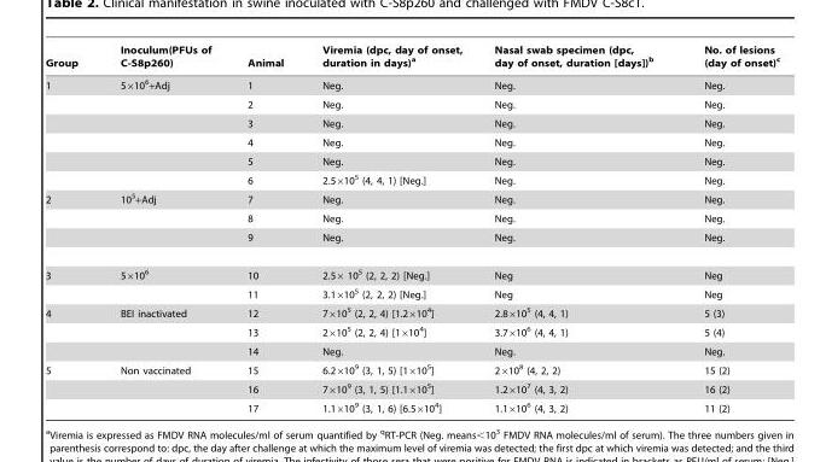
<table><thead><tr><td>Group</td><td>Inoculum(PFUs of C-S8p260)</td><td>Animal</td><td>Viremia (dpc, day of onset, duration in days)<sup>a</sup></td><td>Nasal swab specimen (dpc, day of onset, duration [days])<sup>b</sup></td><td>No. of lesions (day of onset)<sup>c</sup></td></tr></thead><tbody><tr><td rowspan="6">1</td><td>5×10<sup>6</sup>+Adj</td><td>1</td><td>Neg.</td><td>Neg.</td><td>Neg.</td></tr><tr><td></td><td>2</td><td>Neg.</td><td>Neg.</td><td>Neg.</td></tr><tr><td></td><td>3</td><td>Neg.</td><td>Neg.</td><td>Neg.</td></tr><tr><td></td><td>4</td><td>Neg.</td><td>Neg.</td><td>Neg.</td></tr><tr><td></td><td>5</td><td>Neg.</td><td>Neg.</td><td>Neg.</td></tr><tr><td></td><td>6</td><td>2.5×10<sup>5</sup> (4, 4, 1) [Neg.]</td><td>Neg.</td><td>Neg.</td></tr><tr><td rowspan="3">2</td><td>10<sup>5</sup>+Adj</td><td>7</td><td>Neg.</td><td>Neg.</td><td>Neg.</td></tr><tr><td></td><td>8</td><td>Neg.</td><td>Neg.</td><td>Neg.</td></tr><tr><td></td><td>9</td><td>Neg.</td><td>Neg.</td><td>Neg.</td></tr><tr><td rowspan="2">3</td><td>5×10<sup>6</sup></td><td>10</td><td>2.5× 10<sup>5</sup> (2, 2, 2) [Neg.]</td><td>Neg</td><td>Neg</td></tr><tr><td></td><td>11</td><td>3.1×10<sup>5</sup> (2, 2, 2) [Neg.]</td><td>Neg</td><td>Neg</td></tr><tr><td rowspan="3">4</td><td>BEI inactivated</td><td>12</td><td>7×10<sup>5</sup> (2, 2, 4) [1.2×10<sup>4</sup>]</td><td>2.8×10<sup>5</sup> (4, 4, 1)</td><td>5 (3)</td></tr><tr><td></td><td>13</td><td>2×10<sup>5</sup> (2, 2, 4) [1×10<sup>4</sup>]</td><td>3.7×10<sup>6</sup> (4, 4, 1)</td><td>5 (4)</td></tr><tr><td></td><td>14</td><td>Neg.</td><td>Neg.</td><td>Neg.</td></tr><tr><td rowspan="3">5</td><td>Non vaccinated</td><td>15</td><td>6.2×10<sup>9</sup> (3, 1, 5) [1×10<sup>5</sup>]</td><td>2×10<sup>8</sup> (4, 2, 2)</td><td>15 (2)</td></tr><tr><td></td><td>16</td><td>7×10<sup>9</sup> (3, 1, 5) [1.1×10<sup>5</sup>]</td><td>1.2×10<sup>7</sup> (4, 3, 2)</td><td>16 (2)</td></tr><tr><td></td><td>17</td><td>1.1×10<sup>9</sup> (3, 1, 6) [6.5×10<sup>4</sup>]</td><td>1.1×10<sup>6</sup> (4, 3, 2)</td><td>11 (2)</td></tr></tbody></table>